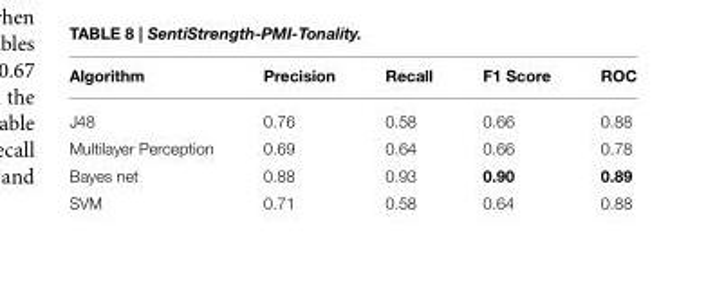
<table><thead><tr><td>Algorithm</td><td>Precision</td><td>Recall</td><td>F1 Score</td><td>ROC</td></tr></thead><tbody><tr><td>J48</td><td>0.76</td><td>0.58</td><td>0.66</td><td>0.88</td></tr><tr><td>Multilayer Perception</td><td>0.69</td><td>0.64</td><td>0.66</td><td>0.78</td></tr><tr><td>Bayes net</td><td>0.88</td><td>0.93</td><td>0.90</td><td>0.89</td></tr><tr><td>SVM</td><td>0.71</td><td>0.58</td><td>0.64</td><td>0.88</td></tr></tbody></table>